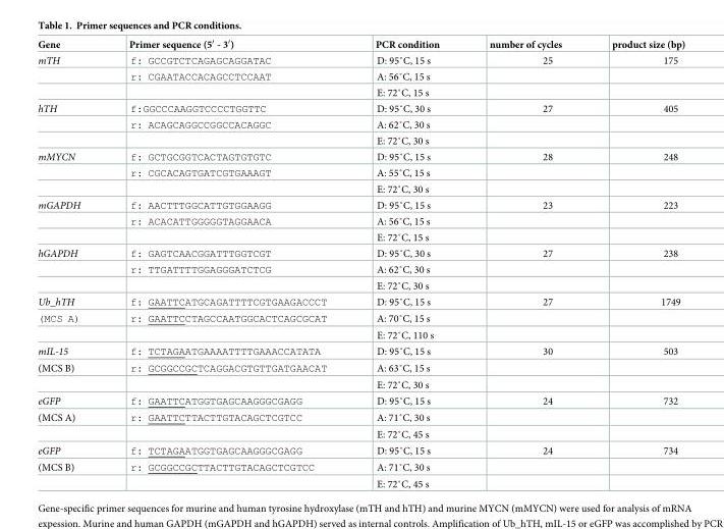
<table><thead><tr><td>Gene</td><td>Primer sequence (5′ - 3′)</td><td>PCR condition</td><td>number of cycles</td><td>product size (bp)</td></tr></thead><tbody><tr><td rowspan="3">mTH</td><td>f: GCCGTCTCAGAGCAGGATAC</td><td>D: 95˚C, 15 s</td><td>25</td><td>175</td></tr><tr><td>r: CGAATACCACAGCCTCCAAT</td><td>A: 56˚C, 15 s</td><td></td><td></td></tr><tr><td></td><td>E: 72˚C, 15 s</td><td></td><td></td></tr><tr><td rowspan="3">hTH</td><td>f:GGCCCAAGGTCCCCTGGTTC</td><td>D: 95˚C, 30 s</td><td>27</td><td>405</td></tr><tr><td>r: ACAGCAGGCCGGCCACAGGC</td><td>A: 62˚C, 30 s</td><td></td><td></td></tr><tr><td></td><td>E: 72˚C, 30 s</td><td></td><td></td></tr><tr><td rowspan="3">mMYCN</td><td>f: GCTGCGGTCACTAGTGTGTC</td><td>D: 95˚C, 15 s</td><td>28</td><td>248</td></tr><tr><td>r: CGCACAGTGATCGTGAAAGT</td><td>A: 55˚C, 15 s</td><td></td><td></td></tr><tr><td></td><td>E: 72˚C, 30 s</td><td></td><td></td></tr><tr><td rowspan="3">mGAPDH</td><td>f: AACTTTGGCATTGTGGAAGG</td><td>D: 95˚C, 15 s</td><td>23</td><td>223</td></tr><tr><td>r: ACACATTGGGGGTAGGAACA</td><td>A: 56˚C, 15 s</td><td></td><td></td></tr><tr><td></td><td>E: 72˚C, 15 s</td><td></td><td></td></tr><tr><td rowspan="3">hGAPDH</td><td>f: GAGTCAACGGATTTGGTCGT</td><td>D: 95˚C, 30 s</td><td>27</td><td>238</td></tr><tr><td>r: TTGATTTTGGAGGGATCTCG</td><td>A: 62˚C, 30 s</td><td></td><td></td></tr><tr><td></td><td>E: 72˚C, 30 s</td><td></td><td></td></tr><tr><td>Ub_hTH</td><td>f: GAATTCATGCAGATTTTCGTGAAGACCCT</td><td>D: 95˚C, 15 s</td><td>27</td><td>1749</td></tr><tr><td rowspan="2">(MCS A)</td><td>r: GAATTCCTAGCCAATGGCACTCAGCGCAT</td><td>A: 70˚C, 15 s</td><td></td><td></td></tr><tr><td></td><td>E: 72˚C, 110 s</td><td></td><td></td></tr><tr><td>mIL-15</td><td>f: TCTAGAATGAAAATTTTGAAACCATATA</td><td>D: 95˚C, 15 s</td><td>30</td><td>503</td></tr><tr><td rowspan="2">(MCS B)</td><td>r: GCGGCCGCTCAGGACGTGTTGATGAACAT</td><td>A: 63˚C, 15 s</td><td></td><td></td></tr><tr><td></td><td>E: 72˚C, 30 s</td><td></td><td></td></tr><tr><td>eGFP</td><td>f: GAATTCATGGTGAGCAAGGGCGAGG</td><td>D: 95˚C, 15 s</td><td>24</td><td>732</td></tr><tr><td rowspan="2">(MCS A)</td><td>r: GAATTCTTACTTGTACAGCTCGTCC</td><td>A: 71˚C, 30 s</td><td></td><td></td></tr><tr><td></td><td>E: 72˚C, 45 s</td><td></td><td></td></tr><tr><td>eGFP</td><td>f: TCTAGAATGGTGAGCAAGGGCGAGG</td><td>D: 95˚C, 15 s</td><td>24</td><td>734</td></tr><tr><td rowspan="2">(MCS B)</td><td>r: GCGGCCGCTTACTTGTACAGCTCGTCC</td><td>A: 71˚C, 30 s</td><td></td><td></td></tr><tr><td></td><td>E: 72˚C, 45 s</td><td></td><td></td></tr></tbody></table>